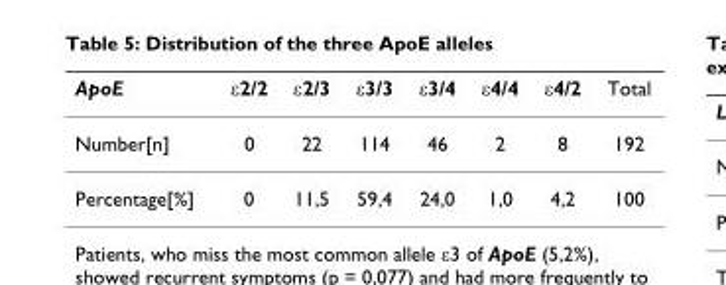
<table><thead><tr><td>ApoE</td><td>ε2/2</td><td>ε2/3</td><td>ε3/3</td><td>ε3/4</td><td>ε4/4</td><td>ε4/2</td><td>Total</td></tr></thead><tbody><tr><td>Number[n]</td><td>0</td><td>22</td><td>114</td><td>46</td><td>2</td><td>8</td><td>192</td></tr><tr><td>Percentage[%]</td><td>0</td><td>11,5</td><td>59,4</td><td>24,0</td><td>1,0</td><td>4,2</td><td>100</td></tr></tbody></table>